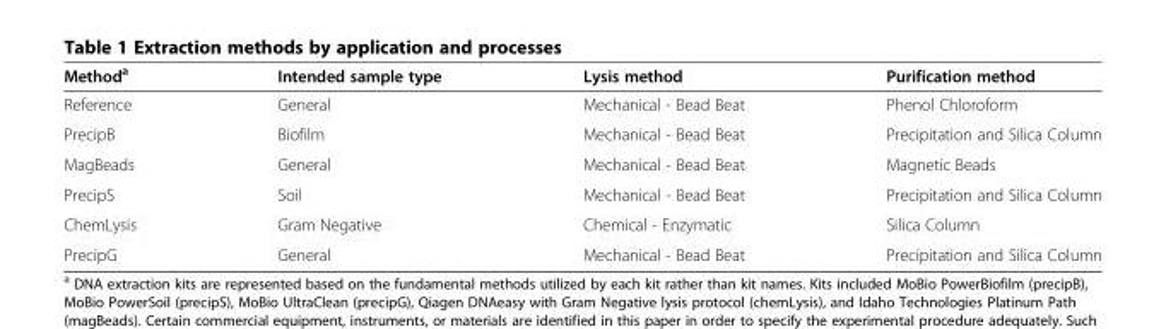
<table><thead><tr><td>Method<sup>a</sup></td><td>Intended sample type</td><td>Lysis method</td><td>Purification method</td></tr></thead><tbody><tr><td>Reference</td><td>General</td><td>Mechanical - Bead Beat</td><td>Phenol Chloroform</td></tr><tr><td>PrecipB</td><td>Biofilm</td><td>Mechanical - Bead Beat</td><td>Precipitation and Silica Column</td></tr><tr><td>MagBeads</td><td>General</td><td>Mechanical - Bead Beat</td><td>Magnetic Beads</td></tr><tr><td>PrecipS</td><td>Soil</td><td>Mechanical - Bead Beat</td><td>Precipitation and Silica Column</td></tr><tr><td>ChemLysis</td><td>Gram Negative</td><td>Chemical - Enzymatic</td><td>Silica Column</td></tr><tr><td>PrecipG</td><td>General</td><td>Mechanical - Bead Beat</td><td>Precipitation and Silica Column</td></tr></tbody></table>